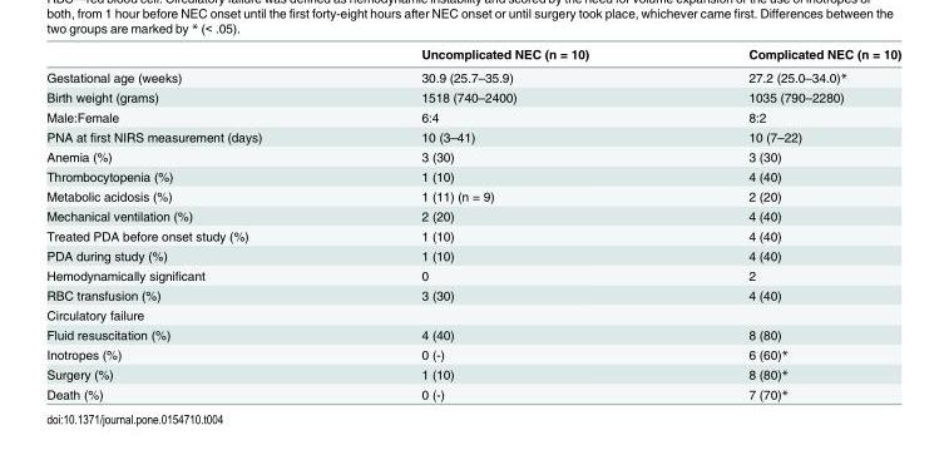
<table><thead><tr><td></td><td>Uncomplicated NEC (n = 10)</td><td>Complicated NEC (n = 10)</td></tr></thead><tbody><tr><td>Gestational age (weeks)</td><td>30.9 (25.7–35.9)</td><td>27.2 (25.0–34.0)*</td></tr><tr><td>Birth weight (grams)</td><td>1518 (740–2400)</td><td>1035 (790–2280)</td></tr><tr><td>Male:Female</td><td>6:4</td><td>8:2</td></tr><tr><td>PNA at first NIRS measurement (days)</td><td>10 (3–41)</td><td>10 (7–22)</td></tr><tr><td>Anemia (%)</td><td>3 (30)</td><td>3 (30)</td></tr><tr><td>Thrombocytopenia (%)</td><td>1 (10)</td><td>4 (40)</td></tr><tr><td>Metabolic acidosis (%)</td><td>1 (11) (n = 9)</td><td>2 (20)</td></tr><tr><td>Mechanical ventilation (%)</td><td>2 (20)</td><td>4 (40)</td></tr><tr><td>Treated PDA before onset study (%)</td><td>1 (10)</td><td>4 (40)</td></tr><tr><td>PDA during study (%)</td><td>1 (10)</td><td>4 (40)</td></tr><tr><td>Hemodynamically significant</td><td>0</td><td>2</td></tr><tr><td>RBC transfusion (%)</td><td>3 (30)</td><td>4 (40)</td></tr><tr><td colspan="3">Circulatory failure</td></tr><tr><td>Fluid resuscitation (%)</td><td>4 (40)</td><td>8 (80)</td></tr><tr><td>Inotropes (%)</td><td>0 (-)</td><td>6 (60)*</td></tr><tr><td>Surgery (%)</td><td>1 (10)</td><td>8 (80)*</td></tr><tr><td>Death (%)</td><td>0 (-)</td><td>7 (70)*</td></tr></tbody></table>